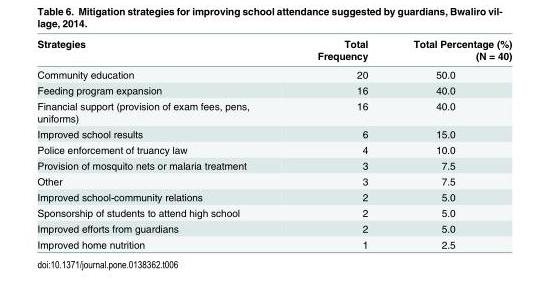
<table><thead><tr><td>Strategies</td><td>Total Frequency</td><td>Total Percentage (%) (N = 40)</td></tr></thead><tbody><tr><td>Community education</td><td>20</td><td>50.0</td></tr><tr><td>Feeding program expansion</td><td>16</td><td>40.0</td></tr><tr><td>Financial support (provision of exam fees, pens, uniforms)</td><td>16</td><td>40.0</td></tr><tr><td>Improved school results</td><td>6</td><td>15.0</td></tr><tr><td>Police enforcement of truancy law</td><td>4</td><td>10.0</td></tr><tr><td>Provision of mosquito nets or malaria treatment</td><td>3</td><td>7.5</td></tr><tr><td>Other</td><td>3</td><td>7.5</td></tr><tr><td>Improved school-community relations</td><td>2</td><td>5.0</td></tr><tr><td>Sponsorship of students to attend high school</td><td>2</td><td>5.0</td></tr><tr><td>Improved efforts from guardians</td><td>2</td><td>5.0</td></tr><tr><td>Improved home nutrition</td><td>1</td><td>2.5</td></tr></tbody></table>